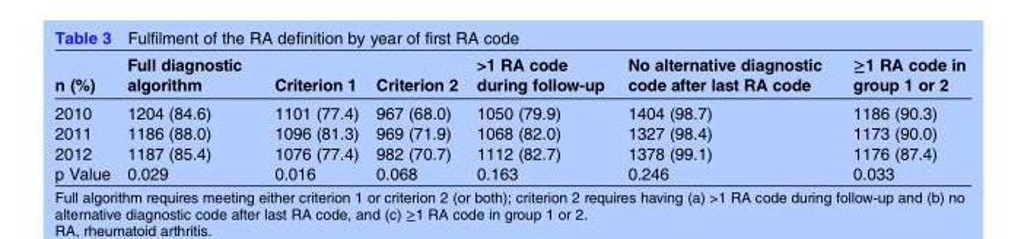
<table><thead><tr><td>n (%)</td><td>Full diagnostic algorithm</td><td>Criterion 1</td><td>Criterion 2</td><td>&gt;1 RA code during follow-up</td><td>No alternative diagnostic code after last RA code</td><td>≥1 RA code in group 1 or 2</td></tr></thead><tbody><tr><td>2010</td><td>1204 (84.6)</td><td>1101 (77.4)</td><td>967 (68.0)</td><td>1050 (79.9)</td><td>1404 (98.7)</td><td>1186 (90.3)</td></tr><tr><td>2011</td><td>1186 (88.0)</td><td>1096 (81.3)</td><td>969 (71.9)</td><td>1068 (82.0)</td><td>1327 (98.4)</td><td>1173 (90.0)</td></tr><tr><td>2012</td><td>1187 (85.4)</td><td>1076 (77.4)</td><td>982 (70.7)</td><td>1112 (82.7)</td><td>1378 (99.1)</td><td>1176 (87.4)</td></tr><tr><td>p Value</td><td>0.029</td><td>0.016</td><td>0.068</td><td>0.163</td><td>0.246</td><td>0.033</td></tr></tbody></table>